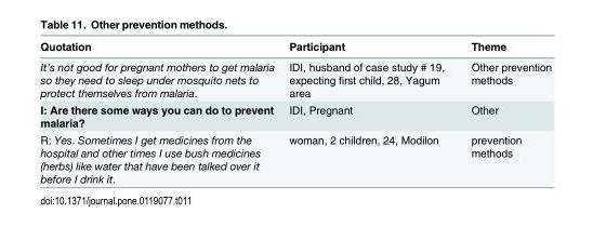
<table><thead><tr><td>Quotation</td><td>Participant</td><td>Theme</td></tr></thead><tbody><tr><td>It’s not good for pregnant mothers to get malaria so they need to sleep under mosquito nets to protect themselves from malaria.</td><td>IDI, husband of case study # 19, expecting first child, 28, Yagum area</td><td>Other prevention methods</td></tr><tr><td>I: Are there some ways you can do to prevent malaria?</td><td>IDI, Pregnant</td><td>Other</td></tr><tr><td>R: Yes. Sometimes I get medicines from the hospital and other times I use bush medicines (herbs) like water that have been talked over it before I drink it.</td><td>woman, 2 children, 24, Modilon</td><td>prevention methods</td></tr></tbody></table>